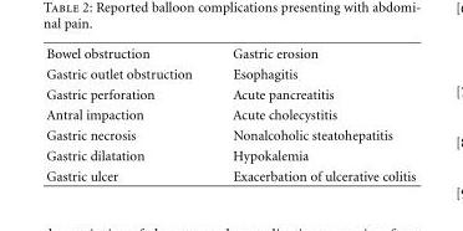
<table><tbody><tr><td>Bowel obstruction</td><td>Gastric erosion</td></tr><tr><td>Gastric outlet obstruction</td><td>Esophagitis</td></tr><tr><td>Gastric perforation</td><td>Acute pancreatitis</td></tr><tr><td>Antral impaction</td><td>Acute cholecystitis</td></tr><tr><td>Gastric necrosis</td><td>Nonalcoholic steatohepatitis</td></tr><tr><td>Gastric dilatation</td><td>Hypokalemia</td></tr><tr><td>Gastric ulcer</td><td>Exacerbation of ulcerative colitis</td></tr></tbody></table>